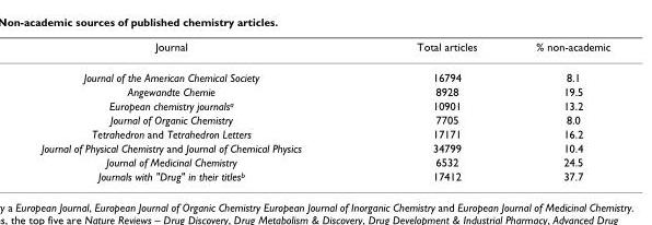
<table><thead><tr><td>Journal</td><td>Total articles</td><td>% non-academic</td></tr></thead><tbody><tr><td>Journal of the American Chemical Society</td><td>16794</td><td>8.1</td></tr><tr><td>Angewandte Chemie</td><td>8928</td><td>19.5</td></tr><tr><td>European chemistry journals<sup>a</sup></td><td>10901</td><td>13.2</td></tr><tr><td>Journal of Organic Chemistry</td><td>7705</td><td>8.0</td></tr><tr><td>Tetrahedron and Tetrahedron Letters</td><td>17171</td><td>16.2</td></tr><tr><td>Journal of Physical Chemistry and Journal of Chemical Physics</td><td>34799</td><td>10.4</td></tr><tr><td>Journal of Medicinal Chemistry</td><td>6532</td><td>24.5</td></tr><tr><td>Journals with &quot;Drug&quot; in their titles<sup>b</sup></td><td>17412</td><td>37.7</td></tr></tbody></table>